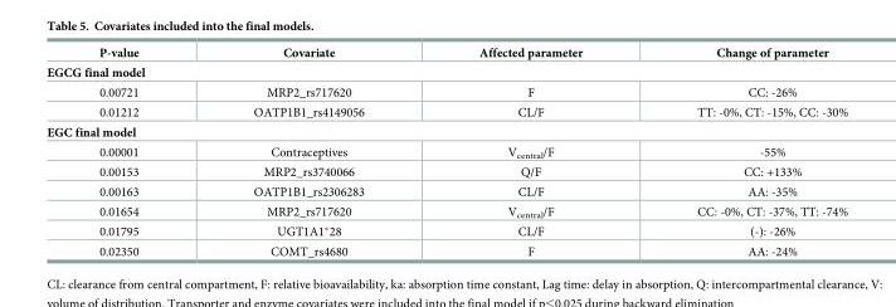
<table><thead><tr><td>P-value</td><td>Covariate</td><td>Affected parameter</td><td>Change of parameter</td></tr></thead><tbody><tr><td colspan="4">EGCG final model</td></tr><tr><td>0.00721</td><td>MRP2_rs717620</td><td>F</td><td>CC: -26%</td></tr><tr><td>0.01212</td><td>OATP1B1_rs4149056</td><td>CL/F</td><td>TT: -0%, CT: -15%, CC: -30%</td></tr><tr><td colspan="4">EGC final model</td></tr><tr><td>0.00001</td><td>Contraceptives</td><td>V<sub>central</sub>/F</td><td>-55%</td></tr><tr><td>0.00153</td><td>MRP2_rs3740066</td><td>Q/F</td><td>CC: +133%</td></tr><tr><td>0.00163</td><td>OATP1B1_rs2306283</td><td>CL/F</td><td>AA: -35%</td></tr><tr><td>0.01654</td><td>MRP2_rs717620</td><td>V<sub>central</sub>/F</td><td>CC: -0%, CT: -37%, TT: -74%</td></tr><tr><td>0.01795</td><td>UGT1A1*28</td><td>CL/F</td><td>(-): -26%</td></tr><tr><td>0.02350</td><td>COMT_rs4680</td><td>F</td><td>AA: -24%</td></tr></tbody></table>